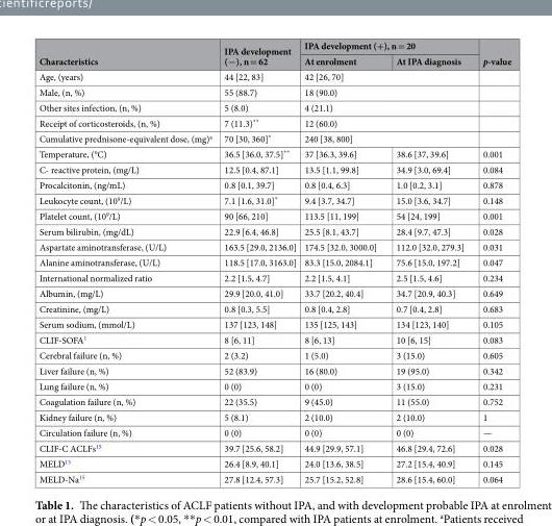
<table><thead><tr><td rowspan="2">Characteristics</td><td rowspan="2">IPA development (−), n = 62</td><td colspan="2">IPA development (+), n = 20</td><td rowspan="2">p-value</td></tr><tr><td>At enrolment</td><td>At IPA diagnosis</td></tr></thead><tbody><tr><td>Age, (years)</td><td>44 [22, 83]</td><td colspan="2">42 [26, 70]</td><td></td></tr><tr><td>Male, (n, %)</td><td>55 (88.7)</td><td colspan="2">18 (90.0)</td><td></td></tr><tr><td>Other sites infection, (n, %)</td><td>5 (8.0)</td><td colspan="2">4 (21.1)</td><td></td></tr><tr><td>Receipt of corticosteroids, (n, %)</td><td>7 (11.3)**</td><td colspan="2">12 (60.0)</td><td></td></tr><tr><td>Cumulative prednisone-equivalent dose, (mg)<sup>a</sup></td><td>70 [30, 360]*</td><td colspan="2">240 [38, 800]</td><td></td></tr><tr><td>Temperature, (°C)</td><td>36.5 [36.0, 37.5]**</td><td>37 [36.3, 39.6]</td><td>38.6 [37, 39.6]</td><td>0.001</td></tr><tr><td>C- reactive protein, (mg/L)</td><td>12.5 [0.4, 87.1]</td><td>13.5 [1.1, 99.8]</td><td>34.9 [3.0, 69.4]</td><td>0.084</td></tr><tr><td>Procalcitonin, (ng/mL)</td><td>0.8 [0.1, 39.7]</td><td>0.8 [0.4, 6.3]</td><td>1.0 [0.2, 3.1]</td><td>0.878</td></tr><tr><td>Leukocyte count, (10<sup>9</sup>/L)</td><td>7.1 [1.6, 31.0]*</td><td>9.4 [3.7, 34.7]</td><td>15.0 [3.6, 34.7]</td><td>0.148</td></tr><tr><td>Platelet count, (10<sup>9</sup>/L)</td><td>90 [66, 210]</td><td>113.5 [11, 199]</td><td>54 [24, 199]</td><td>0.001</td></tr><tr><td>Serum bilirubin, (mg/dL)</td><td>22.9 [6.4, 46.8]</td><td>25.5 [8.1, 43.7]</td><td>28.4 [9.7, 47.3]</td><td>0.028</td></tr><tr><td>Aspartate aminotransferase, (U/L)</td><td>163.5 [29.0, 2136.0]</td><td>174.5 [32.0, 3000.0]</td><td>112.0 [32.0, 279.3]</td><td>0.031</td></tr><tr><td>Alanine aminotransferase, (U/L)</td><td>118.5 [17.0, 3163.0]</td><td>83.3 [15.0, 2084.1]</td><td>75.6 [15.0, 197.2]</td><td>0.047</td></tr><tr><td>International normalized ratio</td><td>2.2 [1.5, 4.7]</td><td>2.2 [1.5, 4.1]</td><td>2.5 [1.5, 4.6]</td><td>0.234</td></tr><tr><td>Albumin, (mg/L)</td><td>29.9 [20.0, 41.0]</td><td>33.7 [20.2, 40.4]</td><td>34.7 [20.9, 40.3]</td><td>0.649</td></tr><tr><td>Creatinine, (mg/L)</td><td>0.8 [0.3, 5.5]</td><td>0.8 [0.4, 2.8]</td><td>0.7 [0.4, 2.8]</td><td>0.683</td></tr><tr><td>Serum sodium, (mmol/L)</td><td>137 [123, 148]</td><td>135 [125, 143]</td><td>134 [123, 140]</td><td>0.105</td></tr><tr><td>CLIF-SOFA<sup>1</sup></td><td>8 [6, 11]</td><td>8 [6, 13]</td><td>10 [6, 15]</td><td>0.083</td></tr><tr><td>Cerebral failure (n, %)</td><td>2 (3.2)</td><td>1 (5.0)</td><td>3 (15.0)</td><td>0.605</td></tr><tr><td>Liver failure (n, %)</td><td>52 (83.9)</td><td>16 (80.0)</td><td>19 (95.0)</td><td>0.342</td></tr><tr><td>Lung failure (n, %)</td><td>0 (0)</td><td>0 (0)</td><td>3 (15.0)</td><td>0.231</td></tr><tr><td>Coagulation failure (n, %)</td><td>22 (35.5)</td><td>9 (45.0)</td><td>11 (55.0)</td><td>0.752</td></tr><tr><td>Kidney failure (n, %)</td><td>5 (8.1)</td><td>2 (10.0)</td><td>2 (10.0)</td><td>1</td></tr><tr><td>Circulation failure (n, %)</td><td>0 (0)</td><td>0 (0)</td><td>0 (0)</td><td>—</td></tr><tr><td>CLIF-C ACLFs<sup>15</sup></td><td>39.7 [25.6, 58.2]</td><td>44.9 [29.9, 57.1]</td><td>46.8 [29.4, 72.6]</td><td>0.028</td></tr><tr><td>MELD<sup>15</sup></td><td>26.4 [8.9, 40.1]</td><td>24.0 [13.6, 38.5]</td><td>27.2 [15.4, 40.9]</td><td>0.145</td></tr><tr><td>MELD-Na<sup>15</sup></td><td>27.8 [12.4, 57.3]</td><td>25.7 [15.2, 52.8]</td><td>28.6 [15.4, 60.0]</td><td>0.064</td></tr></tbody></table>